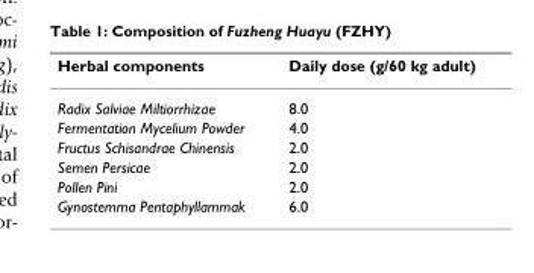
<table><thead><tr><td>Herbal components</td><td>Daily dose (g/60 kg adult)</td></tr></thead><tbody><tr><td>Radix Salviae Miltiorrhizae</td><td>8.0</td></tr><tr><td>Fermentation Mycelium Powder</td><td>4.0</td></tr><tr><td>Fructus Schisandrae Chinensis</td><td>2.0</td></tr><tr><td>Semen Persicae</td><td>2.0</td></tr><tr><td>Pollen Pini</td><td>2.0</td></tr><tr><td>Gynostemma Pentaphyllammak</td><td>6.0</td></tr></tbody></table>